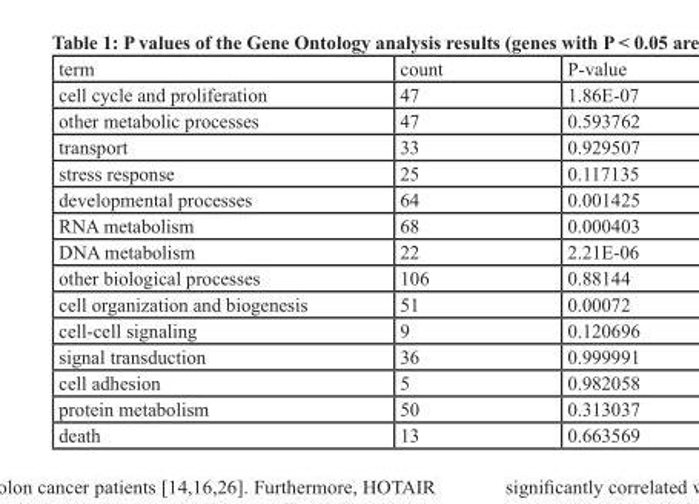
<table><thead><tr><td>term</td><td>count</td><td>P-value</td></tr></thead><tbody><tr><td>cell cycle and proliferation</td><td>47</td><td>1.86E-07</td></tr><tr><td>other metabolic processes</td><td>47</td><td>0.593762</td></tr><tr><td>transport</td><td>33</td><td>0.929507</td></tr><tr><td>stress response</td><td>25</td><td>0.117135</td></tr><tr><td>developmental processes</td><td>64</td><td>0.001425</td></tr><tr><td>RNA metabolism</td><td>68</td><td>0.000403</td></tr><tr><td>DNA metabolism</td><td>22</td><td>2.21E-06</td></tr><tr><td>other biological processes</td><td>106</td><td>0.88144</td></tr><tr><td>cell organization and biogenesis</td><td>51</td><td>0.00072</td></tr><tr><td>cell-cell signaling</td><td>9</td><td>0.120696</td></tr><tr><td>signal transduction</td><td>36</td><td>0.999991</td></tr><tr><td>cell adhesion</td><td>5</td><td>0.982058</td></tr><tr><td>protein metabolism</td><td>50</td><td>0.313037</td></tr><tr><td>death</td><td>13</td><td>0.663569</td></tr></tbody></table>